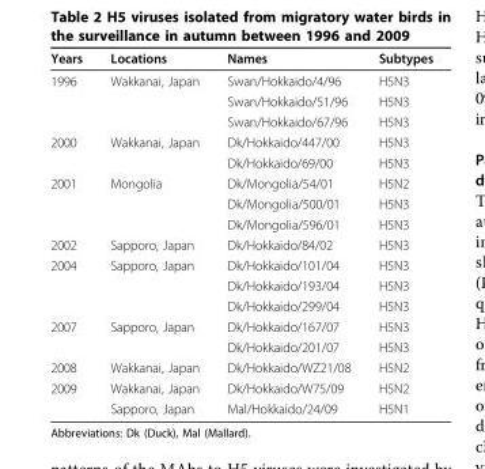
<table><thead><tr><td>Years</td><td>Locations</td><td>Names</td><td>Subtypes</td></tr></thead><tbody><tr><td rowspan="3">1996</td><td>Wakkanai, Japan</td><td>Swan/Hokkaido/4/96</td><td>H5N3</td></tr><tr><td></td><td>Swan/Hokkaido/51/96</td><td>H5N3</td></tr><tr><td></td><td>Swan/Hokkaido/67/96</td><td>H5N3</td></tr><tr><td rowspan="2">2000</td><td>Wakkanai, Japan</td><td>Dk/Hokkaido/447/00</td><td>H5N3</td></tr><tr><td></td><td>Dk/Hokkaido/69/00</td><td>H5N3</td></tr><tr><td rowspan="3">2001</td><td>Mongolia</td><td>Dk/Mongolia/54/01</td><td>H5N2</td></tr><tr><td></td><td>Dk/Mongolia/500/01</td><td>H5N3</td></tr><tr><td></td><td>Dk/Mongolia/596/01</td><td>H5N3</td></tr><tr><td>2002</td><td>Sapporo, Japan</td><td>Dk/Hokkaido/84/02</td><td>H5N3</td></tr><tr><td rowspan="3">2004</td><td>Sapporo, Japan</td><td>Dk/Hokkaido/101/04</td><td>H5N3</td></tr><tr><td></td><td>Dk/Hokkaido/193/04</td><td>H5N3</td></tr><tr><td></td><td>Dk/Hokkaido/299/04</td><td>H5N3</td></tr><tr><td rowspan="2">2007</td><td>Sapporo, Japan</td><td>Dk/Hokkaido/167/07</td><td>H5N3</td></tr><tr><td></td><td>Dk/Hokkaido/201/07</td><td>H5N3</td></tr><tr><td>2008</td><td>Wakkanai, Japan</td><td>Dk/Hokkaido/WZ21/08</td><td>H5N2</td></tr><tr><td rowspan="2">2009</td><td>Wakkanai, Japan</td><td>Dk/Hokkaido/W75/09</td><td>H5N2</td></tr><tr><td>Sapporo, Japan</td><td>Mal/Hokkaido/24/09</td><td>H5N1</td></tr></tbody></table>